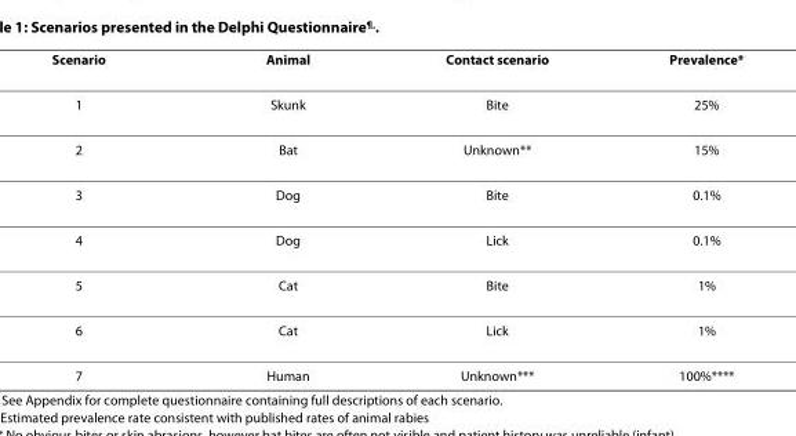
<table><thead><tr><td>Scenario</td><td>Animal</td><td>Contact scenario</td><td>Prevalence*</td></tr></thead><tbody><tr><td>1</td><td>Skunk</td><td>Bite</td><td>25%</td></tr><tr><td>2</td><td>Bat</td><td>Unknown**</td><td>15%</td></tr><tr><td>3</td><td>Dog</td><td>Bite</td><td>0.1%</td></tr><tr><td>4</td><td>Dog</td><td>Lick</td><td>0.1%</td></tr><tr><td>5</td><td>Cat</td><td>Bite</td><td>1%</td></tr><tr><td>6</td><td>Cat</td><td>Lick</td><td>1%</td></tr><tr><td>7</td><td>Human</td><td>Unknown***</td><td>100%****</td></tr></tbody></table>